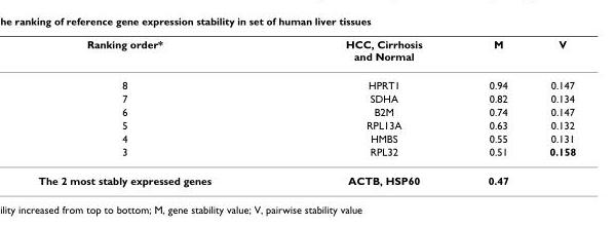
<table><thead><tr><td>Ranking order*</td><td>HCC, Cirrhosis and Normal</td><td>M</td><td>V</td></tr></thead><tbody><tr><td>8</td><td>HPRT1</td><td>0.94</td><td>0.147</td></tr><tr><td>7</td><td>SDHA</td><td>0.82</td><td>0.134</td></tr><tr><td>6</td><td>B2M</td><td>0.74</td><td>0.147</td></tr><tr><td>5</td><td>RPL13A</td><td>0.63</td><td>0.132</td></tr><tr><td>4</td><td>HMBS</td><td>0.55</td><td>0.131</td></tr><tr><td>3</td><td>RPL32</td><td>0.51</td><td>0.158</td></tr><tr><td>The 2 most stably expressed genes</td><td>ACTB, HSP60</td><td>0.47</td><td></td></tr></tbody></table>